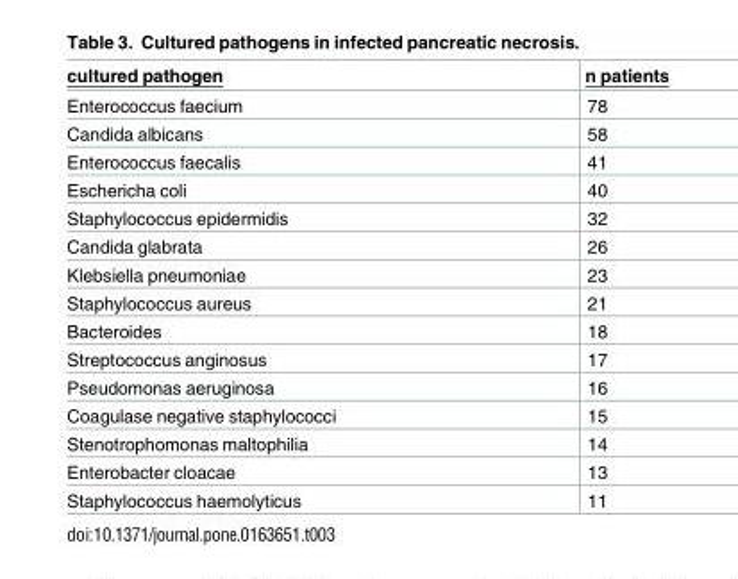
<table><thead><tr><td>cultured pathogen</td><td>n patients</td></tr></thead><tbody><tr><td>Enterococcus faecium</td><td>78</td></tr><tr><td>Candida albicans</td><td>58</td></tr><tr><td>Enterococcus faecalis</td><td>41</td></tr><tr><td>Eschericha coli</td><td>40</td></tr><tr><td>Staphylococcus epidermidis</td><td>32</td></tr><tr><td>Candida glabrata</td><td>26</td></tr><tr><td>Klebsiella pneumoniae</td><td>23</td></tr><tr><td>Staphylococcus aureus</td><td>21</td></tr><tr><td>Bacteroides</td><td>18</td></tr><tr><td>Streptococcus anginosus</td><td>17</td></tr><tr><td>Pseudomonas aeruginosa</td><td>16</td></tr><tr><td>Coagulase negative staphylococci</td><td>15</td></tr><tr><td>Stenotrophomonas maltophilia</td><td>14</td></tr><tr><td>Enterobacter cloacae</td><td>13</td></tr><tr><td>Staphylococcus haemolyticus</td><td>11</td></tr></tbody></table>